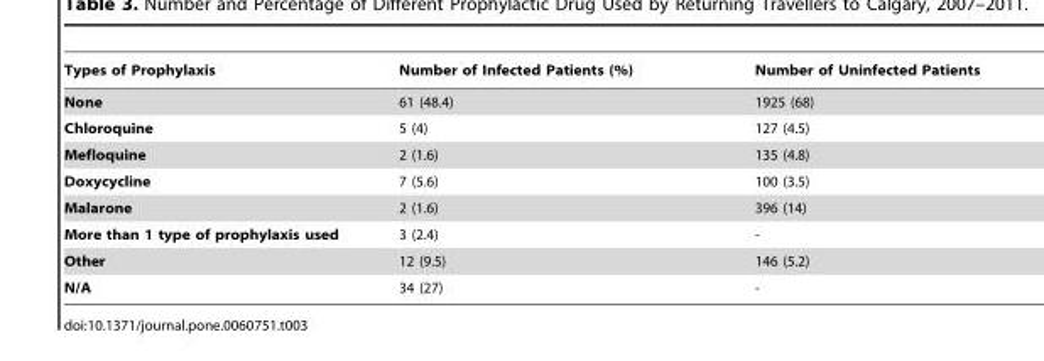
<table><thead><tr><td>Types of Prophylaxis</td><td>Number of Infected Patients (%)</td><td>Number of Uninfected Patients</td></tr></thead><tbody><tr><td>None</td><td>61 (48.4)</td><td>1925 (68)</td></tr><tr><td>Chloroquine</td><td>5 (4)</td><td>127 (4.5)</td></tr><tr><td>Mefloquine</td><td>2 (1.6)</td><td>135 (4.8)</td></tr><tr><td>Doxycycline</td><td>7 (5.6)</td><td>100 (3.5)</td></tr><tr><td>Malarone</td><td>2 (1.6)</td><td>396 (14)</td></tr><tr><td>More than 1 type of prophylaxis used</td><td>3 (2.4)</td><td>-</td></tr><tr><td>Other</td><td>12 (9.5)</td><td>146 (5.2)</td></tr><tr><td>N/A</td><td>34 (27)</td><td>-</td></tr></tbody></table>